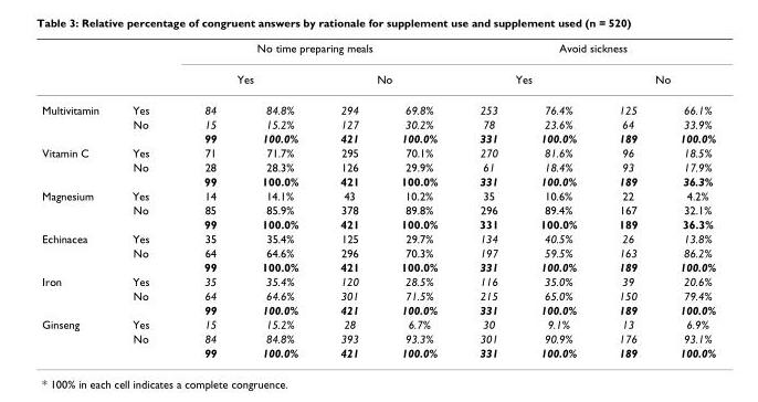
<table><thead><tr><td rowspan="3">Multivitamin</td><td rowspan="3">Yes</td><td colspan="4">No time preparing meals</td><td colspan="4">Avoid sickness</td></tr><tr><td colspan="2">Yes</td><td colspan="2">No</td><td colspan="2">Yes</td><td colspan="2">No</td></tr><tr><td>84</td><td>84.8%</td><td>294</td><td>69.8%</td><td>253</td><td>76.4%</td><td>125</td><td>66.1%</td></tr></thead><tbody><tr><td></td><td>No</td><td>15</td><td>15.2%</td><td>127</td><td>30.2%</td><td>78</td><td>23.6%</td><td>64</td><td>33.9%</td></tr><tr><td></td><td></td><td>99</td><td>100.0%</td><td>421</td><td>100.0%</td><td>331</td><td>100.0%</td><td>189</td><td>100.0%</td></tr><tr><td rowspan="3">Vitamin C</td><td>Yes</td><td>71</td><td>71.7%</td><td>295</td><td>70.1%</td><td>270</td><td>81.6%</td><td>96</td><td>18.5%</td></tr><tr><td>No</td><td>28</td><td>28.3%</td><td>126</td><td>29.9%</td><td>61</td><td>18.4%</td><td>93</td><td>17.9%</td></tr><tr><td></td><td>99</td><td>100.0%</td><td>421</td><td>100.0%</td><td>331</td><td>100.0%</td><td>189</td><td>36.3%</td></tr><tr><td rowspan="3">Magnesium</td><td>Yes</td><td>14</td><td>14.1%</td><td>43</td><td>10.2%</td><td>35</td><td>10.6%</td><td>22</td><td>4.2%</td></tr><tr><td>No</td><td>85</td><td>85.9%</td><td>378</td><td>89.8%</td><td>296</td><td>89.4%</td><td>167</td><td>32.1%</td></tr><tr><td></td><td>99</td><td>100.0%</td><td>421</td><td>100.0%</td><td>331</td><td>100.0%</td><td>189</td><td>36.3%</td></tr><tr><td rowspan="3">Echinacea</td><td>Yes</td><td>35</td><td>35.4%</td><td>125</td><td>29.7%</td><td>134</td><td>40.5%</td><td>26</td><td>13.8%</td></tr><tr><td>No</td><td>64</td><td>64.6%</td><td>296</td><td>70.3%</td><td>197</td><td>59.5%</td><td>163</td><td>86.2%</td></tr><tr><td></td><td>99</td><td>100.0%</td><td>421</td><td>100.0%</td><td>331</td><td>100.0%</td><td>189</td><td>100.0%</td></tr><tr><td rowspan="3">Iron</td><td>Yes</td><td>35</td><td>35.4%</td><td>120</td><td>28.5%</td><td>116</td><td>35.0%</td><td>39</td><td>20.6%</td></tr><tr><td>No</td><td>64</td><td>64.6%</td><td>301</td><td>71.5%</td><td>215</td><td>65.0%</td><td>150</td><td>79.4%</td></tr><tr><td></td><td>99</td><td>100.0%</td><td>421</td><td>100.0%</td><td>331</td><td>100.0%</td><td>189</td><td>100.0%</td></tr><tr><td rowspan="3">Ginseng</td><td>Yes</td><td>15</td><td>15.2%</td><td>28</td><td>6.7%</td><td>30</td><td>9.1%</td><td>13</td><td>6.9%</td></tr><tr><td>No</td><td>84</td><td>84.8%</td><td>393</td><td>93.3%</td><td>301</td><td>90.9%</td><td>176</td><td>93.1%</td></tr><tr><td></td><td>99</td><td>100.0%</td><td>421</td><td>100.0%</td><td>331</td><td>100.0%</td><td>189</td><td>100.0%</td></tr></tbody></table>